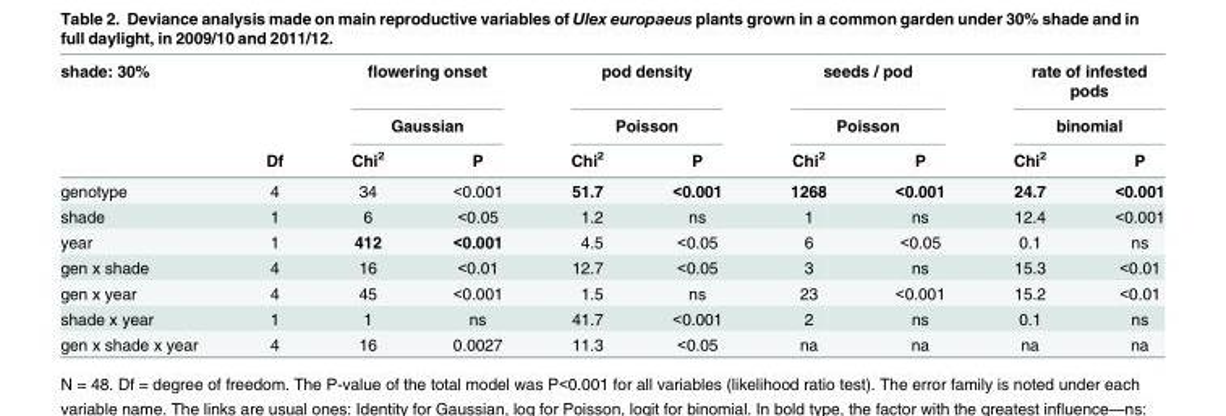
<table><thead><tr><td rowspan="3">shade: 30%</td><td rowspan="3">Df</td><td rowspan="2" colspan="2">flowering onset Gaussian</td><td rowspan="2" colspan="2">pod density Poisson</td><td rowspan="2" colspan="2">seeds / pod Poisson</td><td rowspan="2" colspan="2">rate of infested pods binomial</td></tr><tr></tr><tr><td>Chi<sup>2</sup></td><td>P</td><td>Chi<sup>2</sup></td><td>P</td><td>Chi<sup>2</sup></td><td>P</td><td>Chi<sup>2</sup></td><td>P</td></tr></thead><tbody><tr><td>genotype</td><td>4</td><td>34</td><td>&lt;0.001</td><td>51.7</td><td>&lt;0.001</td><td>1268</td><td>&lt;0.001</td><td>24.7</td><td>&lt;0.001</td></tr><tr><td>shade</td><td>1</td><td>6</td><td>&lt;0.05</td><td>1.2</td><td>ns</td><td>1</td><td>ns</td><td>12.4</td><td>&lt;0.001</td></tr><tr><td>year</td><td>1</td><td>412</td><td>&lt;0.001</td><td>4.5</td><td>&lt;0.05</td><td>6</td><td>&lt;0.05</td><td>0.1</td><td>ns</td></tr><tr><td>gen x shade</td><td>4</td><td>16</td><td>&lt;0.01</td><td>12.7</td><td>&lt;0.05</td><td>3</td><td>ns</td><td>15.3</td><td>&lt;0.01</td></tr><tr><td>gen x year</td><td>4</td><td>45</td><td>&lt;0.001</td><td>1.5</td><td>ns</td><td>23</td><td>&lt;0.001</td><td>15.2</td><td>&lt;0.01</td></tr><tr><td>shade x year</td><td>1</td><td>1</td><td>ns</td><td>41.7</td><td>&lt;0.001</td><td>2</td><td>ns</td><td>0.1</td><td>ns</td></tr><tr><td>gen x shade x year</td><td>4</td><td>16</td><td>0.0027</td><td>11.3</td><td>&lt;0.05</td><td>na</td><td>na</td><td>na</td><td>na</td></tr></tbody></table>